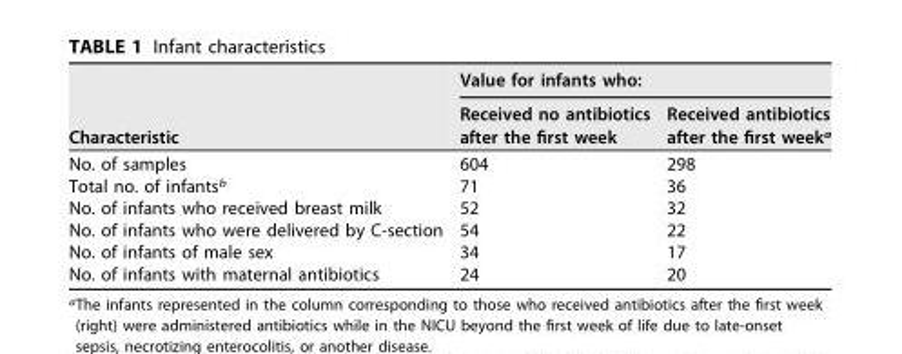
<table><thead><tr><td rowspan="2">Characteristic</td><td colspan="2">Value for infants who:</td></tr><tr><td>Received no antibiotics after the first week</td><td>Received antibiotics after the first week<sup>a</sup></td></tr></thead><tbody><tr><td>No. of samples</td><td>604</td><td>298</td></tr><tr><td>Total no. of infants<sup>b</sup></td><td>71</td><td>36</td></tr><tr><td>No. of infants who received breast milk</td><td>52</td><td>32</td></tr><tr><td>No. of infants who were delivered by C-section</td><td>54</td><td>22</td></tr><tr><td>No. of infants of male sex</td><td>34</td><td>17</td></tr><tr><td>No. of infants with maternal antibiotics</td><td>24</td><td>20</td></tr></tbody></table>